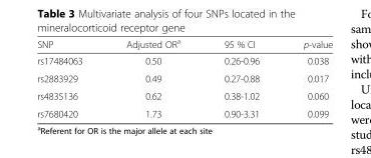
<table><thead><tr><td>SNP</td><td>Adjusted OR<sup>a</sup></td><td>95 % CI</td><td>p-value</td></tr></thead><tbody><tr><td>rs17484063</td><td>0.50</td><td>0.26-0.96</td><td>0.038</td></tr><tr><td>rs2883929</td><td>0.49</td><td>0.27-0.88</td><td>0.017</td></tr><tr><td>rs4835136</td><td>0.62</td><td>0.38-1.02</td><td>0.060</td></tr><tr><td>rs7680420</td><td>1.73</td><td>0.90-3.31</td><td>0.099</td></tr></tbody></table>